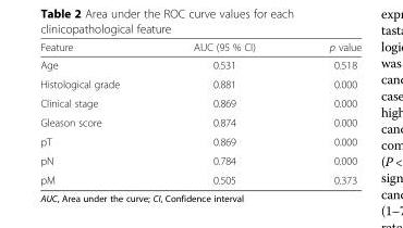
<table><thead><tr><td>Feature</td><td>AUC (95 % CI)</td><td>p value</td></tr></thead><tbody><tr><td>Age</td><td>0.531</td><td>0.518</td></tr><tr><td>Histological grade</td><td>0.881</td><td>0.000</td></tr><tr><td>Clinical stage</td><td>0.869</td><td>0.000</td></tr><tr><td>Gleason score</td><td>0.874</td><td>0.000</td></tr><tr><td>pT</td><td>0.869</td><td>0.000</td></tr><tr><td>pN</td><td>0.784</td><td>0.000</td></tr><tr><td>pM</td><td>0.505</td><td>0.373</td></tr></tbody></table>